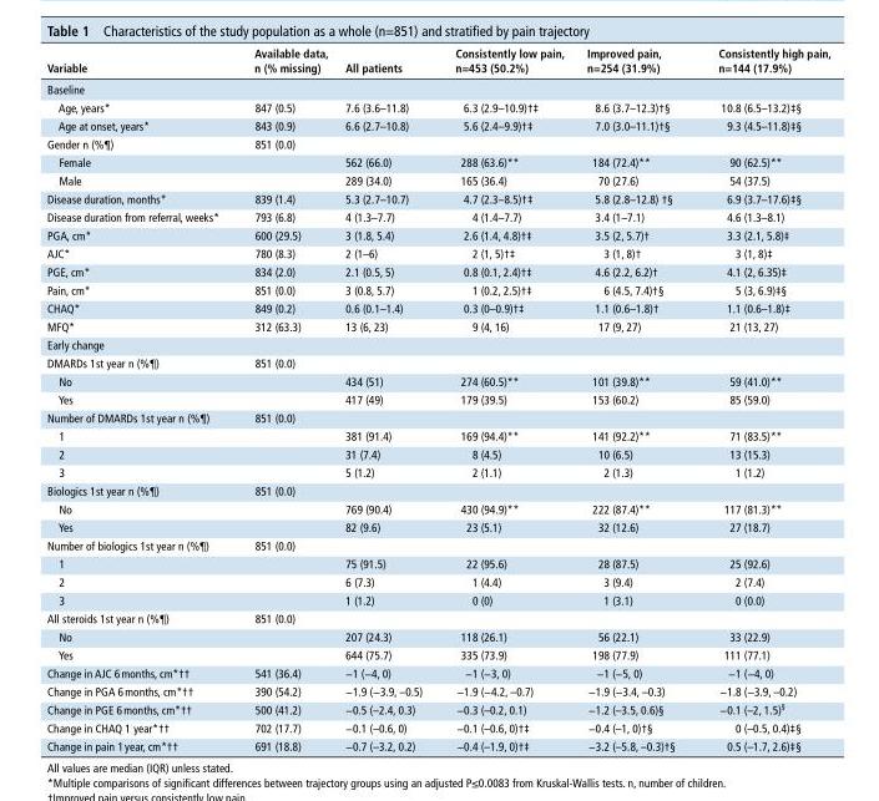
<table><thead><tr><td>Variable</td><td>Available data, n (% missing)</td><td>All patients</td><td>Consistently low pain, n=453 (50.2%)</td><td>Improved pain, n=254 (31.9%)</td><td>Consistently high pain, n=144 (17.9%)</td></tr></thead><tbody><tr><td colspan="6">Baseline</td></tr><tr><td>Age, years*</td><td>847 (0.5)</td><td>7.6 (3.6–11.8)</td><td>6.3 (2.9–10.9)†‡</td><td>8.6 (3.7–12.3)†§</td><td>10.8 (6.5–13.2)‡§</td></tr><tr><td>Age at onset, years*</td><td>843 (0.9)</td><td>6.6 (2.7–10.8)</td><td>5.6 (2.4–9.9)†‡</td><td>7.0 (3.0–11.1)†§</td><td>9.3 (4.5–11.8)‡§</td></tr><tr><td>Gender n (%¶)</td><td>851 (0.0)</td><td></td><td></td><td></td><td></td></tr><tr><td>Female</td><td></td><td>562 (66.0)</td><td>288 (63.6)**</td><td>184 (72.4)**</td><td>90 (62.5)**</td></tr><tr><td>Male</td><td></td><td>289 (34.0)</td><td>165 (36.4)</td><td>70 (27.6)</td><td>54 (37.5)</td></tr><tr><td>Disease duration, months*</td><td>839 (1.4)</td><td>5.3 (2.7–10.7)</td><td>4.7 (2.3–8.5)†‡</td><td>5.8 (2.8–12.8) †§</td><td>6.9 (3.7–17.6)‡§</td></tr><tr><td>Disease duration from referral, weeks*</td><td>793 (6.8)</td><td>4 (1.3–7.7)</td><td>4 (1.4–7.7)</td><td>3.4 (1–7.1)</td><td>4.6 (1.3–8.1)</td></tr><tr><td>PGA, cm*</td><td>600 (29.5)</td><td>3 (1.8, 5.4)</td><td>2.6 (1.4, 4.8)†‡</td><td>3.5 (2, 5.7)†</td><td>3.3 (2.1, 5.8)‡</td></tr><tr><td>AJC*</td><td>780 (8.3)</td><td>2 (1–6)</td><td>2 (1, 5)†‡</td><td>3 (1, 8)†</td><td>3 (1, 8)‡</td></tr><tr><td>PGE, cm*</td><td>834 (2.0)</td><td>2.1 (0.5, 5)</td><td>0.8 (0.1, 2.4)†‡</td><td>4.6 (2.2, 6.2)†</td><td>4.1 (2, 6.35)‡</td></tr><tr><td>Pain, cm*</td><td>851 (0.0)</td><td>3 (0.8, 5.7)</td><td>1 (0.2, 2.5)†‡</td><td>6 (4.5, 7.4)†§</td><td>5 (3, 6.9)‡§</td></tr><tr><td>CHAQ*</td><td>849 (0.2)</td><td>0.6 (0.1–1.4)</td><td>0.3 (0–0.9)†‡</td><td>1.1 (0.6–1.8)†</td><td>1.1 (0.6–1.8)‡</td></tr><tr><td>MFQ*</td><td>312 (63.3)</td><td>13 (6, 23)</td><td>9 (4, 16)</td><td>17 (9, 27)</td><td>21 (13, 27)</td></tr><tr><td colspan="6">Early change</td></tr><tr><td>DMARDs 1st year n (%¶)</td><td>851 (0.0)</td><td></td><td></td><td></td><td></td></tr><tr><td>No</td><td></td><td>434 (51)</td><td>274 (60.5)**</td><td>101 (39.8)**</td><td>59 (41.0)**</td></tr><tr><td>Yes</td><td></td><td>417 (49)</td><td>179 (39.5)</td><td>153 (60.2)</td><td>85 (59.0)</td></tr><tr><td>Number of DMARDs 1st year n (%¶)</td><td>851 (0.0)</td><td></td><td></td><td></td><td></td></tr><tr><td>1</td><td></td><td>381 (91.4)</td><td>169 (94.4)**</td><td>141 (92.2)**</td><td>71 (83.5)**</td></tr><tr><td>2</td><td></td><td>31 (7.4)</td><td>8 (4.5)</td><td>10 (6.5)</td><td>13 (15.3)</td></tr><tr><td>3</td><td></td><td>5 (1.2)</td><td>2 (1.1)</td><td>2 (1.3)</td><td>1 (1.2)</td></tr><tr><td>Biologics 1st year n (%¶)</td><td>851 (0.0)</td><td></td><td></td><td></td><td></td></tr><tr><td>No</td><td></td><td>769 (90.4)</td><td>430 (94.9)**</td><td>222 (87.4)**</td><td>117 (81.3)**</td></tr><tr><td>Yes</td><td></td><td>82 (9.6)</td><td>23 (5.1)</td><td>32 (12.6)</td><td>27 (18.7)</td></tr><tr><td>Number of biologics 1st year n (%¶)</td><td>851 (0.0)</td><td></td><td></td><td></td><td></td></tr><tr><td>1</td><td></td><td>75 (91.5)</td><td>22 (95.6)</td><td>28 (87.5)</td><td>25 (92.6)</td></tr><tr><td>2</td><td></td><td>6 (7.3)</td><td>1 (4.4)</td><td>3 (9.4)</td><td>2 (7.4)</td></tr><tr><td>3</td><td></td><td>1 (1.2)</td><td>0 (0)</td><td>1 (3.1)</td><td>0 (0.0)</td></tr><tr><td>All steroids 1st year n (%¶)</td><td>851 (0.0)</td><td></td><td></td><td></td><td></td></tr><tr><td>No</td><td></td><td>207 (24.3)</td><td>118 (26.1)</td><td>56 (22.1)</td><td>33 (22.9)</td></tr><tr><td>Yes</td><td></td><td>644 (75.7)</td><td>335 (73.9)</td><td>198 (77.9)</td><td>111 (77.1)</td></tr><tr><td>Change in AJC 6 months, cm*††</td><td>541 (36.4)</td><td>−1 (−4, 0)</td><td>−1 (−3, 0)</td><td>−1 (−5, 0)</td><td>−1 (−4, 0)</td></tr><tr><td>Change in PGA 6 months, cm*††</td><td>390 (54.2)</td><td>−1.9 (−3.9, –0.5)</td><td>−1.9 (−4.2, –0.7)</td><td>−1.9 (−3.4, –0.3)</td><td>−1.8 (−3.9, –0.2)</td></tr><tr><td>Change in PGE 6 months, cm*††</td><td>500 (41.2)</td><td>−0.5 (–2.4, 0.3)</td><td>−0.3 (–0.2, 0.1)</td><td>−1.2 (–3.5, 0.6)§</td><td>−0.1 (–2, 1.5)<sup>§</sup></td></tr><tr><td>Change in CHAQ 1 year*††</td><td>702 (17.7)</td><td>−0.1 (–0.6, 0)</td><td>−0.1 (–0.6, 0)†‡</td><td>−0.4 (–1, 0)†§</td><td>0 (–0.5, 0.4)‡§</td></tr><tr><td>Change in pain 1 year, cm*††</td><td>691 (18.8)</td><td>−0.7 (–3.2, 0.2)</td><td>−0.4 (–1.9, 0)†‡</td><td>−3.2 (–5.8, –0.3)†§</td><td>0.5 (–1.7, 2.6)‡§</td></tr></tbody></table>